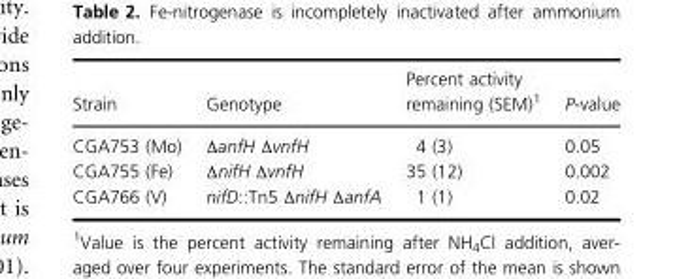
<table><thead><tr><td>Strain</td><td>Genotype</td><td>Percent activity remaining (SEM)<sup>1</sup></td><td>P-value</td></tr></thead><tbody><tr><td>CGA753 (Mo)</td><td>ΔanfH ΔvnfH</td><td>4 (3)</td><td>0.05</td></tr><tr><td>CGA755 (Fe)</td><td>ΔnifH ΔvnfH</td><td>35 (12)</td><td>0.002</td></tr><tr><td>CGA766 (V)</td><td>nifD::Tn5 ΔnifH ΔanfA</td><td>1 (1)</td><td>0.02</td></tr></tbody></table>